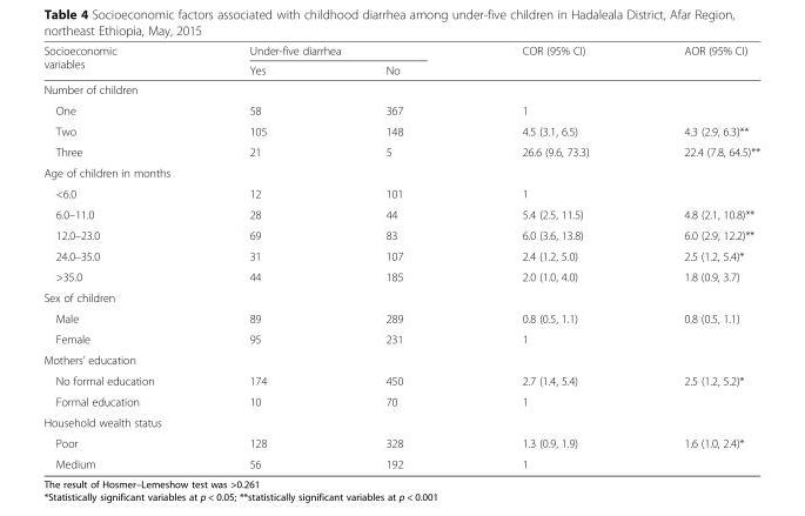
<table><thead><tr><td rowspan="2">Socioeconomic variables</td><td colspan="2">Under-five diarrhea</td><td rowspan="2">COR (95% CI)</td><td rowspan="2">AOR (95% CI)</td></tr><tr><td>Yes</td><td>No</td></tr></thead><tbody><tr><td colspan="5">Number of children</td></tr><tr><td>One</td><td>58</td><td>367</td><td>1</td><td></td></tr><tr><td>Two</td><td>105</td><td>148</td><td>4.5 (3.1, 6.5)</td><td>4.3 (2.9, 6.3)**</td></tr><tr><td>Three</td><td>21</td><td>5</td><td>26.6 (9.6, 73.3)</td><td>22.4 (7.8, 64.5)**</td></tr><tr><td colspan="5">Age of children in months</td></tr><tr><td>&lt;6.0</td><td>12</td><td>101</td><td>1</td><td></td></tr><tr><td>6.0–11.0</td><td>28</td><td>44</td><td>5.4 (2.5, 11.5)</td><td>4.8 (2.1, 10.8)**</td></tr><tr><td>12.0–23.0</td><td>69</td><td>83</td><td>6.0 (3.6, 13.8)</td><td>6.0 (2.9, 12.2)**</td></tr><tr><td>24.0–35.0</td><td>31</td><td>107</td><td>2.4 (1.2, 5.0)</td><td>2.5 (1.2, 5.4)*</td></tr><tr><td>&gt;35.0</td><td>44</td><td>185</td><td>2.0 (1.0, 4.0)</td><td>1.8 (0.9, 3.7)</td></tr><tr><td colspan="5">Sex of children</td></tr><tr><td>Male</td><td>89</td><td>289</td><td>0.8 (0.5, 1.1)</td><td>0.8 (0.5, 1.1)</td></tr><tr><td>Female</td><td>95</td><td>231</td><td>1</td><td></td></tr><tr><td colspan="5">Mothers’ education</td></tr><tr><td>No formal education</td><td>174</td><td>450</td><td>2.7 (1.4, 5.4)</td><td>2.5 (1.2, 5.2)*</td></tr><tr><td>Formal education</td><td>10</td><td>70</td><td>1</td><td></td></tr><tr><td colspan="5">Household wealth status</td></tr><tr><td>Poor</td><td>128</td><td>328</td><td>1.3 (0.9, 1.9)</td><td>1.6 (1.0, 2.4)*</td></tr><tr><td>Medium</td><td>56</td><td>192</td><td>1</td><td></td></tr></tbody></table>